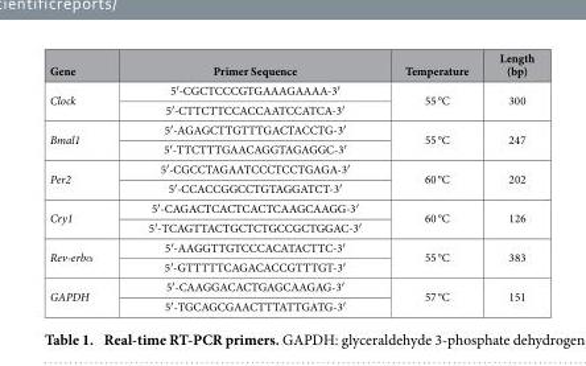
<table><thead><tr><td>Gene</td><td>Primer Sequence</td><td>Temperature</td><td>Length (bp)</td></tr></thead><tbody><tr><td rowspan="2">Clock</td><td>5′ -CGCTCCCGTGAAAGAAAA-3′</td><td rowspan="2">55 °C</td><td rowspan="2">300</td></tr><tr><td>5′ -CTTCTTCCACCAATCCATCA-3′</td></tr><tr><td rowspan="2">Bmal1</td><td>5′ -AGAGCTTGTTTGACTACCTG-3′</td><td rowspan="2">55 °C</td><td rowspan="2">247</td></tr><tr><td>5′ -TTCTTTGAACAGGTAGAGGC-3′</td></tr><tr><td rowspan="2">Per2</td><td>5′ -CGCCTAGAATCCCTCCTGAGA-3′</td><td rowspan="2">60 °C</td><td rowspan="2">202</td></tr><tr><td>5′ -CCACCGGCCTGTAGGATCT-3′</td></tr><tr><td rowspan="2">Cry1</td><td>5′ -CAGACTCACTCACTCAAGCAAGG-3′</td><td rowspan="2">60 °C</td><td rowspan="2">126</td></tr><tr><td>5′ -TCAGTTACTGCTCTGCCGCTGGAC-3′</td></tr><tr><td rowspan="2">Rev-erbα</td><td>5′ -AAGGTTGTCCCACATACTTC-3′</td><td rowspan="2">55 °C</td><td rowspan="2">383</td></tr><tr><td>5′ -GTTTTTCAGACACCGTTTGT-3′</td></tr><tr><td rowspan="2">GAPDH</td><td>5′ -CAAGGACACTGAGCAAGAG-3′</td><td rowspan="2">57 °C</td><td rowspan="2">151</td></tr><tr><td>5′ -TGCAGCGAACTTTATTGATG-3′</td></tr></tbody></table>